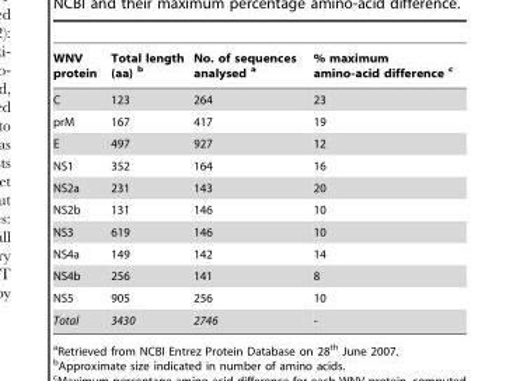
<table><thead><tr><td>WNV protein</td><td>Total length (aa) b</td><td>No. of sequences analysed a</td><td>% maximum amino-acid difference c</td></tr></thead><tbody><tr><td>C</td><td>123</td><td>264</td><td>23</td></tr><tr><td>prM</td><td>167</td><td>417</td><td>19</td></tr><tr><td>E</td><td>497</td><td>927</td><td>12</td></tr><tr><td>NS1</td><td>352</td><td>164</td><td>16</td></tr><tr><td>NS2a</td><td>231</td><td>143</td><td>20</td></tr><tr><td>NS2b</td><td>131</td><td>146</td><td>10</td></tr><tr><td>NS3</td><td>619</td><td>146</td><td>10</td></tr><tr><td>NS4a</td><td>149</td><td>142</td><td>14</td></tr><tr><td>NS4b</td><td>256</td><td>141</td><td>8</td></tr><tr><td>NS5</td><td>905</td><td>256</td><td>10</td></tr><tr><td>Total</td><td>3430</td><td>2746</td><td>-</td></tr></tbody></table>